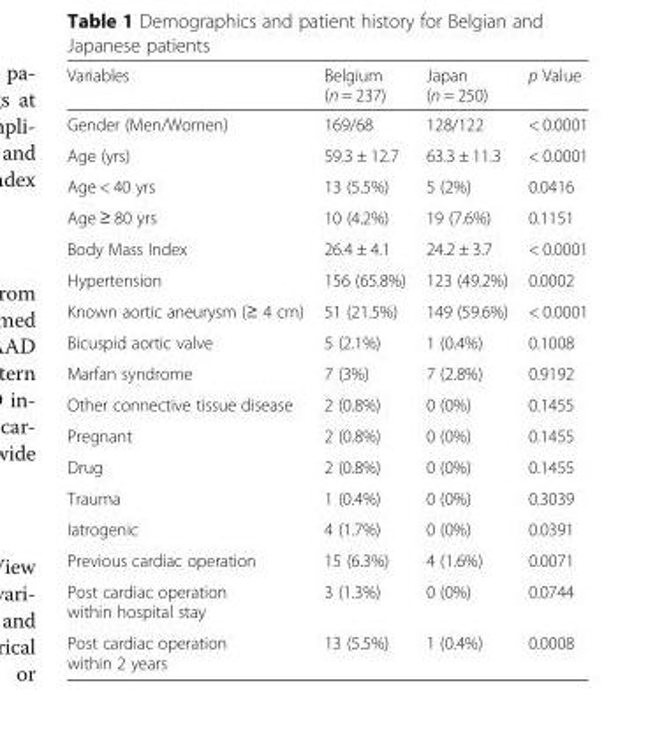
<table><thead><tr><td>Variables</td><td>Belgium (n = 237)</td><td>Japan (n = 250)</td><td>p Value</td></tr></thead><tbody><tr><td>Gender (Men/Women)</td><td>169/68</td><td>128/122</td><td>&lt; 0.0001</td></tr><tr><td>Age (yrs)</td><td>59.3 ± 12.7</td><td>63.3 ± 11.3</td><td>&lt; 0.0001</td></tr><tr><td>Age &lt; 40 yrs</td><td>13 (5.5%)</td><td>5 (2%)</td><td>0.0416</td></tr><tr><td>Age ≥ 80 yrs</td><td>10 (4.2%)</td><td>19 (7.6%)</td><td>0.1151</td></tr><tr><td>Body Mass Index</td><td>26.4 ± 4.1</td><td>24.2 ± 3.7</td><td>&lt; 0.0001</td></tr><tr><td>Hypertension</td><td>156 (65.8%)</td><td>123 (49.2%)</td><td>0.0002</td></tr><tr><td>Known aortic aneurysm (≥ 4 cm)</td><td>51 (21.5%)</td><td>149 (59.6%)</td><td>&lt; 0.0001</td></tr><tr><td>Bicuspid aortic valve</td><td>5 (2.1%)</td><td>1 (0.4%)</td><td>0.1008</td></tr><tr><td>Marfan syndrome</td><td>7 (3%)</td><td>7 (2.8%)</td><td>0.9192</td></tr><tr><td>Other connective tissue disease</td><td>2 (0.8%)</td><td>0 (0%)</td><td>0.1455</td></tr><tr><td>Pregnant</td><td>2 (0.8%)</td><td>0 (0%)</td><td>0.1455</td></tr><tr><td>Drug</td><td>2 (0.8%)</td><td>0 (0%)</td><td>0.1455</td></tr><tr><td>Trauma</td><td>1 (0.4%)</td><td>0 (0%)</td><td>0.3039</td></tr><tr><td>Iatrogenic</td><td>4 (1.7%)</td><td>0 (0%)</td><td>0.0391</td></tr><tr><td>Previous cardiac operation</td><td>15 (6.3%)</td><td>4 (1.6%)</td><td>0.0071</td></tr><tr><td>Post cardiac operation within hospital stay</td><td>3 (1.3%)</td><td>0 (0%)</td><td>0.0744</td></tr><tr><td>Post cardiac operation within 2 years</td><td>13 (5.5%)</td><td>1 (0.4%)</td><td>0.0008</td></tr></tbody></table>